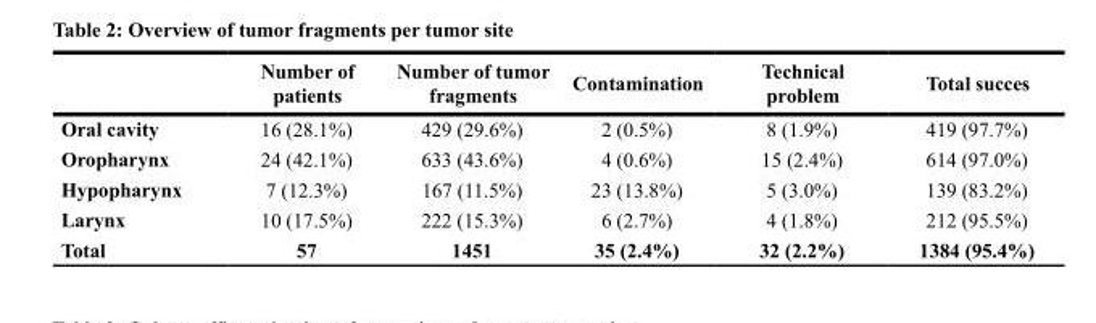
<table><thead><tr><td></td><td>Number of patients</td><td>Number of tumor fragments</td><td>Contamination</td><td>Technical problem</td><td>Total succes</td></tr></thead><tbody><tr><td>Oral cavity</td><td>16 (28.1%)</td><td>429 (29.6%)</td><td>2 (0.5%)</td><td>8 (1.9%)</td><td>419 (97.7%)</td></tr><tr><td>Oropharynx</td><td>24 (42.1%)</td><td>633 (43.6%)</td><td>4 (0.6%)</td><td>15 (2.4%)</td><td>614 (97.0%)</td></tr><tr><td>Hypopharynx</td><td>7 (12.3%)</td><td>167 (11.5%)</td><td>23 (13.8%)</td><td>5 (3.0%)</td><td>139 (83.2%)</td></tr><tr><td>Larynx</td><td>10 (17.5%)</td><td>222 (15.3%)</td><td>6 (2.7%)</td><td>4 (1.8%)</td><td>212 (95.5%)</td></tr><tr><td>Total</td><td>57</td><td>1451</td><td>35 (2.4%)</td><td>32 (2.2%)</td><td>1384 (95.4%)</td></tr></tbody></table>